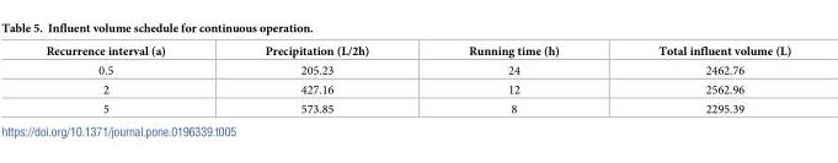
<table><thead><tr><td>Recurrence interval (a)</td><td>Precipitation (L/2h)</td><td>Running time (h)</td><td>Total influent volume (L)</td></tr></thead><tbody><tr><td>0.5</td><td>205.23</td><td>24</td><td>2462.76</td></tr><tr><td>2</td><td>427.16</td><td>12</td><td>2562.96</td></tr><tr><td>5</td><td>573.85</td><td>8</td><td>2295.39</td></tr></tbody></table>